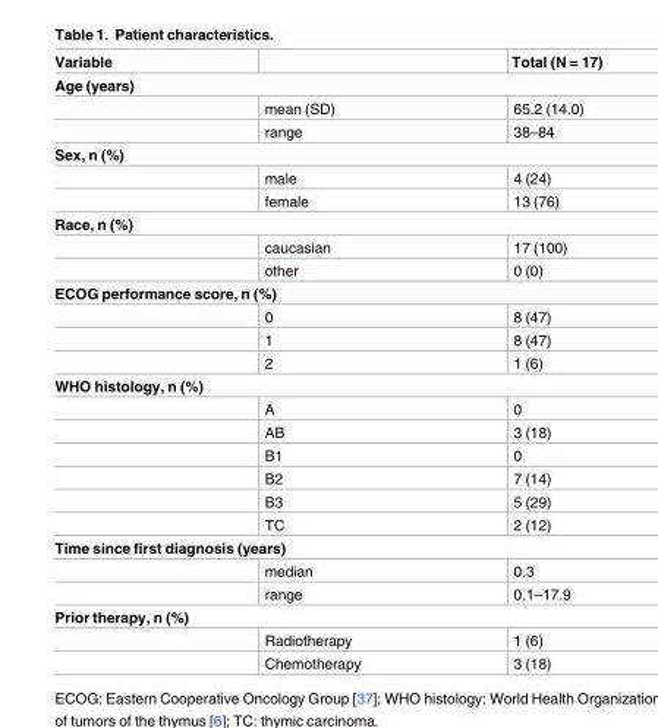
<table><thead><tr><td>Variable</td><td></td><td>Total (N = 17)</td></tr></thead><tbody><tr><td colspan="3">Age (years)</td></tr><tr><td></td><td>mean (SD)</td><td>65.2 (14.0)</td></tr><tr><td></td><td>range</td><td>38–84</td></tr><tr><td colspan="3">Sex, n (%)</td></tr><tr><td></td><td>male</td><td>4 (24)</td></tr><tr><td></td><td>female</td><td>13 (76)</td></tr><tr><td colspan="3">Race, n (%)</td></tr><tr><td></td><td>caucasian</td><td>17 (100)</td></tr><tr><td></td><td>other</td><td>0 (0)</td></tr><tr><td colspan="3">ECOG performance score, n (%)</td></tr><tr><td></td><td>0</td><td>8 (47)</td></tr><tr><td></td><td>1</td><td>8 (47)</td></tr><tr><td></td><td>2</td><td>1 (6)</td></tr><tr><td colspan="3">WHO histology, n (%)</td></tr><tr><td></td><td>A</td><td>0</td></tr><tr><td></td><td>AB</td><td>3 (18)</td></tr><tr><td></td><td>B1</td><td>0</td></tr><tr><td></td><td>B2</td><td>7 (14)</td></tr><tr><td></td><td>B3</td><td>5 (29)</td></tr><tr><td></td><td>TC</td><td>2 (12)</td></tr><tr><td colspan="3">Time since first diagnosis (years)</td></tr><tr><td></td><td>median</td><td>0.3</td></tr><tr><td></td><td>range</td><td>0.1–17.9</td></tr><tr><td colspan="3">Prior therapy, n (%)</td></tr><tr><td></td><td>Radiotherapy</td><td>1 (6)</td></tr><tr><td></td><td>Chemotherapy</td><td>3 (18)</td></tr></tbody></table>